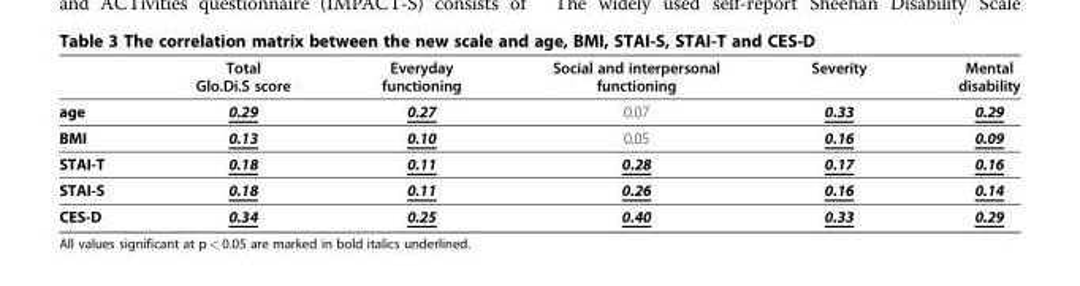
<table><thead><tr><td></td><td>Total Glo.Di.S score</td><td>Everyday functioning</td><td>Social and interpersonal functioning</td><td>Severity</td><td>Mental disability</td></tr></thead><tbody><tr><td>age</td><td>0.29</td><td>0.27</td><td>0.07</td><td>0.33</td><td>0.29</td></tr><tr><td>BMI</td><td>0.13</td><td>0.10</td><td>0.05</td><td>0.16</td><td>0.09</td></tr><tr><td>STAI-T</td><td>0.18</td><td>0.11</td><td>0.28</td><td>0.17</td><td>0.16</td></tr><tr><td>STAI-S</td><td>0.18</td><td>0.11</td><td>0.26</td><td>0.16</td><td>0.14</td></tr><tr><td>CES-D</td><td>0.34</td><td>0.25</td><td>0.40</td><td>0.33</td><td>0.29</td></tr></tbody></table>